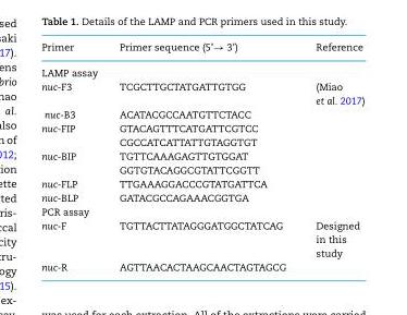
<table><thead><tr><td>Primer</td><td>Primer sequence (5’→ 3’)</td><td>Reference</td></tr></thead><tbody><tr><td colspan="3">LAMP assay</td></tr><tr><td>nuc-F3</td><td>TCGCTTGCTATGATTGTGG</td><td>(Miao et al. <sup>2017</sup>)</td></tr><tr><td>nuc-B3</td><td>ACATACGCCAATGTTCTACC</td><td></td></tr><tr><td>nuc-FIP</td><td>GTACAGTTTCATGATTCGTCC CGCCATCATTATTGTAGGTGT</td><td></td></tr><tr><td>nuc-BIP</td><td>TGTTCAAAGAGTTGTGGAT GGTGTACAGGCGTATTCGGTT</td><td></td></tr><tr><td>nuc-FLP</td><td>TTGAAAGGACCCGTATGATTCA</td><td></td></tr><tr><td>nuc-BLP</td><td>GATACGCCAGAAACGGTGA</td><td></td></tr><tr><td colspan="3">PCR assay</td></tr><tr><td>nuc-F</td><td>TGTTACTTATAGGGATGGCTATCAG</td><td>Designed in this study</td></tr><tr><td>nuc-R</td><td>AGTTAACACTAAGCAACTAGTAGCG</td><td></td></tr></tbody></table>